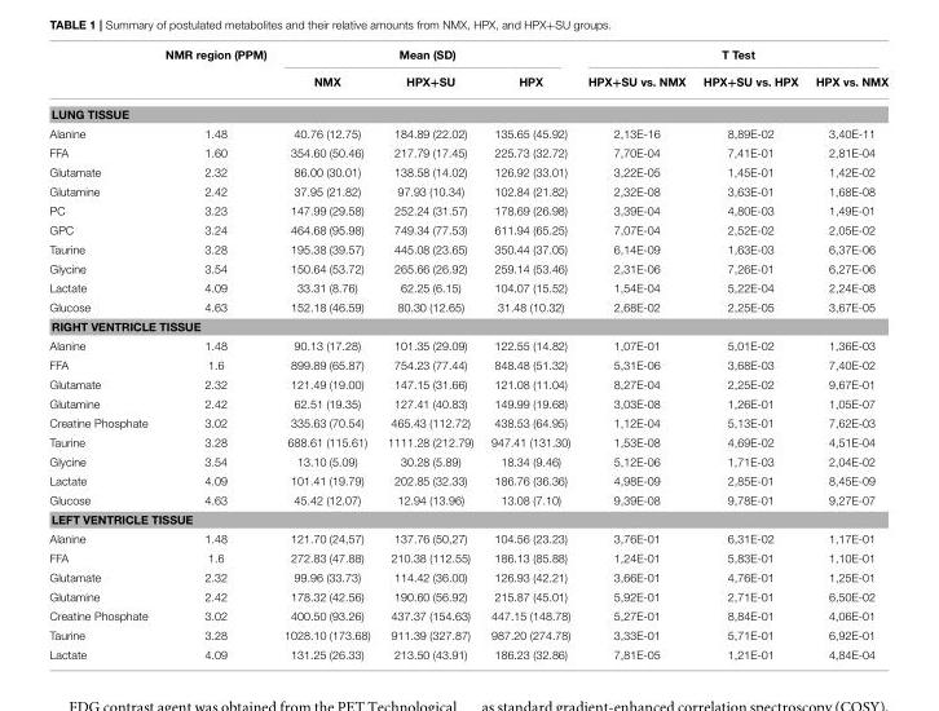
<table><thead><tr><td rowspan="2"></td><td rowspan="2">NMR region (PPM)</td><td colspan="3">Mean (SD)</td><td colspan="3">T Test</td></tr><tr><td>NMX</td><td>HPX+SU</td><td>HPX</td><td>HPX+SU vs. NMX</td><td>HPX+SU vs. HPX</td><td>HPX vs. NMX</td></tr></thead><tbody><tr><td colspan="8">LUNG TISSUE</td></tr><tr><td>Alanine</td><td>1.48</td><td>40.76 (12.75)</td><td>184.89 (22.02)</td><td>135.65 (45.92)</td><td>2,13E-16</td><td>8,89E-02</td><td>3,40E-11</td></tr><tr><td>FFA</td><td>1.60</td><td>354.60 (50.46)</td><td>217.79 (17.45)</td><td>225.73 (32.72)</td><td>7,70E-04</td><td>7,41E-01</td><td>2,81E-04</td></tr><tr><td>Glutamate</td><td>2.32</td><td>86.00 (30.01)</td><td>138.58 (14.02)</td><td>126.92 (33.01)</td><td>3,22E-05</td><td>1,45E-01</td><td>1,42E-02</td></tr><tr><td>Glutamine</td><td>2.42</td><td>37.95 (21.82)</td><td>97.93 (10.34)</td><td>102.84 (21.82)</td><td>2,32E-08</td><td>3,63E-01</td><td>1,68E-08</td></tr><tr><td>PC</td><td>3.23</td><td>147.99 (29.58)</td><td>252.24 (31.57)</td><td>178.69 (26.98)</td><td>3,39E-04</td><td>4,80E-03</td><td>1,49E-01</td></tr><tr><td>GPC</td><td>3.24</td><td>464.68 (95.98)</td><td>749.34 (77.53)</td><td>611.94 (65.25)</td><td>7,07E-04</td><td>2,52E-02</td><td>2,05E-02</td></tr><tr><td>Taurine</td><td>3.28</td><td>195.38 (39.57)</td><td>445.08 (23.65)</td><td>350.44 (37.05)</td><td>6,14E-09</td><td>1,63E-03</td><td>6,37E-06</td></tr><tr><td>Glycine</td><td>3.54</td><td>150.64 (53.72)</td><td>265.66 (26.92)</td><td>259.14 (53.46)</td><td>2,31E-06</td><td>7,26E-01</td><td>6,27E-06</td></tr><tr><td>Lactate</td><td>4.09</td><td>33.31 (8.76)</td><td>62.25 (6.15)</td><td>104.07 (15.52)</td><td>1,54E-04</td><td>5,22E-04</td><td>2,24E-08</td></tr><tr><td>Glucose</td><td>4.63</td><td>152.18 (46.59)</td><td>80.30 (12.65)</td><td>31.48 (10.32)</td><td>2,68E-02</td><td>2,25E-05</td><td>3,67E-05</td></tr><tr><td colspan="8">RIGHT VENTRICLE TISSUE</td></tr><tr><td>Alanine</td><td>1.48</td><td>90.13 (17.28)</td><td>101.35 (29.09)</td><td>122.55 (14.82)</td><td>1,07E-01</td><td>5,01E-02</td><td>1,36E-03</td></tr><tr><td>FFA</td><td>1.6</td><td>899.89 (65.87)</td><td>754.23 (77.44)</td><td>848.48 (51.32)</td><td>5,31E-06</td><td>3,68E-03</td><td>7,40E-02</td></tr><tr><td>Glutamate</td><td>2.32</td><td>121.49 (19.00)</td><td>147.15 (31.66)</td><td>121.08 (11.04)</td><td>8,27E-04</td><td>2,25E-02</td><td>9,67E-01</td></tr><tr><td>Glutamine</td><td>2.42</td><td>62.51 (19.35)</td><td>127.41 (40.83)</td><td>149.99 (19.68)</td><td>3,03E-08</td><td>1,26E-01</td><td>1,05E-07</td></tr><tr><td>Creatine Phosphate</td><td>3.02</td><td>335.63 (70.54)</td><td>465.43 (112.72)</td><td>438.53 (64.95)</td><td>1,12E-04</td><td>5,13E-01</td><td>7,62E-03</td></tr><tr><td>Taurine</td><td>3.28</td><td>688.61 (115.61)</td><td>1111.28 (212.79)</td><td>947.41 (131.30)</td><td>1,53E-08</td><td>4,69E-02</td><td>4,51E-04</td></tr><tr><td>Glycine</td><td>3.54</td><td>13.10 (5.09)</td><td>30.28 (5.89)</td><td>18.34 (9.46)</td><td>5,12E-06</td><td>1,71E-03</td><td>2,04E-02</td></tr><tr><td>Lactate</td><td>4.09</td><td>101.41 (19.79)</td><td>202.85 (32.33)</td><td>186.76 (36.36)</td><td>4,98E-09</td><td>2,85E-01</td><td>8,45E-09</td></tr><tr><td>Glucose</td><td>4.63</td><td>45.42 (12.07)</td><td>12.94 (13.96)</td><td>13.08 (7.10)</td><td>9,39E-08</td><td>9,78E-01</td><td>9,27E-07</td></tr><tr><td colspan="8">LEFT VENTRICLE TISSUE</td></tr><tr><td>Alanine</td><td>1.48</td><td>121.70 (24,57)</td><td>137.76 (50,27)</td><td>104.56 (23.23)</td><td>3,76E-01</td><td>6,31E-02</td><td>1,17E-01</td></tr><tr><td>FFA</td><td>1.6</td><td>272.83 (47.88)</td><td>210.38 (112.55)</td><td>186.13 (85.88)</td><td>1,24E-01</td><td>5,83E-01</td><td>1,10E-01</td></tr><tr><td>Glutamate</td><td>2.32</td><td>99.96 (33.73)</td><td>114.42 (36.00)</td><td>126.93 (42.21)</td><td>3,66E-01</td><td>4,76E-01</td><td>1,25E-01</td></tr><tr><td>Glutamine</td><td>2.42</td><td>178.32 (42.56)</td><td>190.60 (56.92)</td><td>215.87 (45.01)</td><td>5,92E-01</td><td>2,71E-01</td><td>6,50E-02</td></tr><tr><td>Creatine Phosphate</td><td>3.02</td><td>400.50 (93.26)</td><td>437.37 (154.63)</td><td>447.15 (148.78)</td><td>5,27E-01</td><td>8,84E-01</td><td>4,06E-01</td></tr><tr><td>Taurine</td><td>3.28</td><td>1028.10 (173.68)</td><td>911.39 (327.87)</td><td>987.20 (274.78)</td><td>3,33E-01</td><td>5,71E-01</td><td>6,92E-01</td></tr><tr><td>Lactate</td><td>4.09</td><td>131.25 (26.33)</td><td>213.50 (43.91)</td><td>186.23 (32.86)</td><td>7,81E-05</td><td>1,21E-01</td><td>4,84E-04</td></tr></tbody></table>